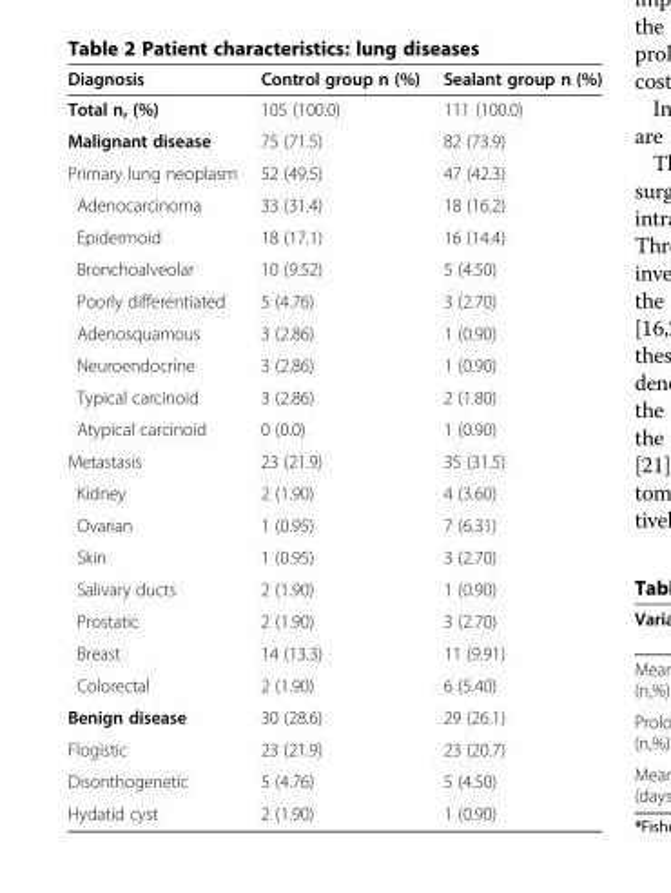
<table><thead><tr><td>Diagnosis</td><td>Control group n (%)</td><td>Sealant group n (%)</td></tr></thead><tbody><tr><td>Total n, (%)</td><td>105 (100.0)</td><td>111 (100.0)</td></tr><tr><td>Malignant disease</td><td>75 (71.5)</td><td>82 (73.9)</td></tr><tr><td>Primary lung neoplasm</td><td>52 (49.5)</td><td>47 (42.3)</td></tr><tr><td>Adenocarcinoma</td><td>33 (31.4)</td><td>18 (16.2)</td></tr><tr><td>Epidermoid</td><td>18 (17.1)</td><td>16 (14.4)</td></tr><tr><td>Bronchoalveolar</td><td>10 (9.52)</td><td>5 (4.50)</td></tr><tr><td>Poorly differentiated</td><td>5 (4.76)</td><td>3 (2.70)</td></tr><tr><td>Adenosquamous</td><td>3 (2.86)</td><td>1 (0.90)</td></tr><tr><td>Neuroendocrine</td><td>3 (2.86)</td><td>1 (0.90)</td></tr><tr><td>Typical carcinoid</td><td>3 (2.86)</td><td>2 (1.80)</td></tr><tr><td>Atypical carcinoid</td><td>0 (0.0)</td><td>1 (0.90)</td></tr><tr><td>Metastasis</td><td>23 (21.9)</td><td>35 (31.5)</td></tr><tr><td>Kidney</td><td>2 (1.90)</td><td>4 (3.60)</td></tr><tr><td>Ovarian</td><td>1 (0.95)</td><td>7 (6.31)</td></tr><tr><td>Skin</td><td>1 (0.95)</td><td>3 (2.70)</td></tr><tr><td>Salivary ducts</td><td>2 (1.90)</td><td>1 (0.90)</td></tr><tr><td>Prostatic</td><td>2 (1.90)</td><td>3 (2.70)</td></tr><tr><td>Breast</td><td>14 (13.3)</td><td>11 (9.91)</td></tr><tr><td>Colorectal</td><td>2 (1.90)</td><td>6 (5.40)</td></tr><tr><td>Benign disease</td><td>30 (28.6)</td><td>29 (26.1)</td></tr><tr><td>Flogistic</td><td>23 (21.9)</td><td>23 (20.7)</td></tr><tr><td>Disonthogenetic</td><td>5 (4.76)</td><td>5 (4.50)</td></tr><tr><td>Hydatid cyst</td><td>2 (1.90)</td><td>1 (0.90)</td></tr></tbody></table>